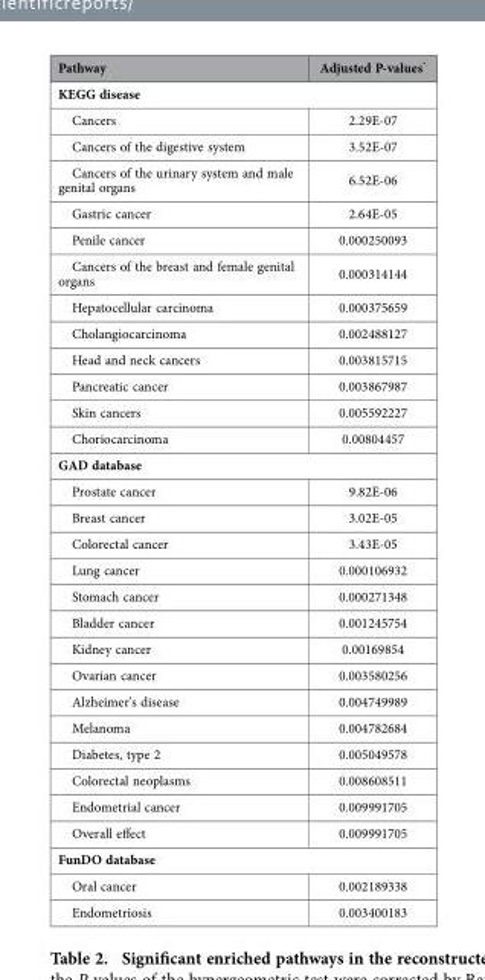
<table><thead><tr><td>Pathway</td><td>Adjusted P-values*</td></tr></thead><tbody><tr><td colspan="2">KEGG disease</td></tr><tr><td>Cancers</td><td>2.29E-07</td></tr><tr><td>Cancers of the digestive system</td><td>3.52E-07</td></tr><tr><td>Cancers of the urinary system and male genital organs</td><td>6.52E-06</td></tr><tr><td>Gastric cancer</td><td>2.64E-05</td></tr><tr><td>Penile cancer</td><td>0.000250093</td></tr><tr><td>Cancers of the breast and female genital organs</td><td>0.000314144</td></tr><tr><td>Hepatocellular carcinoma</td><td>0.000375659</td></tr><tr><td>Cholangiocarcinoma</td><td>0.002488127</td></tr><tr><td>Head and neck cancers</td><td>0.003815715</td></tr><tr><td>Pancreatic cancer</td><td>0.003867987</td></tr><tr><td>Skin cancers</td><td>0.005592227</td></tr><tr><td>Choriocarcinoma</td><td>0.00804457</td></tr><tr><td colspan="2">GAD database</td></tr><tr><td>Prostate cancer</td><td>9.82E-06</td></tr><tr><td>Breast cancer</td><td>3.02E-05</td></tr><tr><td>Colorectal cancer</td><td>3.43E-05</td></tr><tr><td>Lung cancer</td><td>0.000106932</td></tr><tr><td>Stomach cancer</td><td>0.000271348</td></tr><tr><td>Bladder cancer</td><td>0.001245754</td></tr><tr><td>Kidney cancer</td><td>0.00169854</td></tr><tr><td>Ovarian cancer</td><td>0.003580256</td></tr><tr><td>Alzheimer&#x27;s disease</td><td>0.004749989</td></tr><tr><td>Melanoma</td><td>0.004782684</td></tr><tr><td>Diabetes, type 2</td><td>0.005049578</td></tr><tr><td>Colorectal neoplasms</td><td>0.008608511</td></tr><tr><td>Endometrial cancer</td><td>0.009991705</td></tr><tr><td>Overall effect</td><td>0.009991705</td></tr><tr><td colspan="2">FunDO database</td></tr><tr><td>Oral cancer</td><td>0.002189338</td></tr><tr><td>Endometriosis</td><td>0.003400183</td></tr></tbody></table>